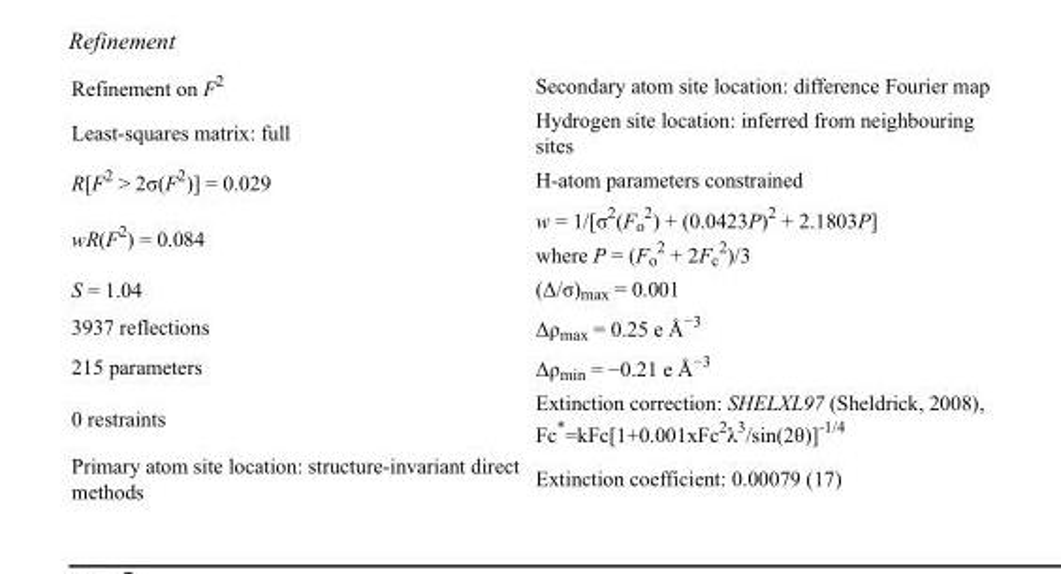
<table><tbody><tr><td>Refinement on F<sup>2</sup></td><td>Secondary atom site location: difference Fourier map</td></tr><tr><td>Least-squares matrix: full</td><td>Hydrogen site location: inferred from neighbouring sites</td></tr><tr><td>R[F<sup>2</sup> &gt; 2σ(F<sup>2</sup>)] = 0.029</td><td>H-atom parameters constrained</td></tr><tr><td>wR(F<sup>2</sup>) = 0.084</td><td>w = 1/[σ<sup>2</sup>(F<sub>o</sub> <sup>2</sup>) + (0.0423P)<sup>2</sup> + 2.1803P] where P = (F<sub>o</sub> <sup>2</sup> + 2F<sub>c</sub> <sup>2</sup>)/3</td></tr><tr><td>S = 1.04</td><td>(Δ/σ)<sub>max</sub> = 0.001</td></tr><tr><td>3937 reflections</td><td>Δρ<sub>max</sub> = 0.25 e Å<sup>−3</sup></td></tr><tr><td>215 parameters</td><td>Δρ<sub>min</sub> = −0.21 e Å<sup>−3</sup></td></tr><tr><td>0 restraints</td><td>Extinction correction: SHELXL97 (Sheldrick, 2008), Fc*=kFc[1+0.001xFc<sup>2</sup>λ<sup>3</sup>/sin(2θ)]<sup>-1/4</sup></td></tr><tr><td>Primary atom site location: structure-invariant direct methods</td><td>Extinction coefficient: 0.00079 (17)</td></tr></tbody></table>